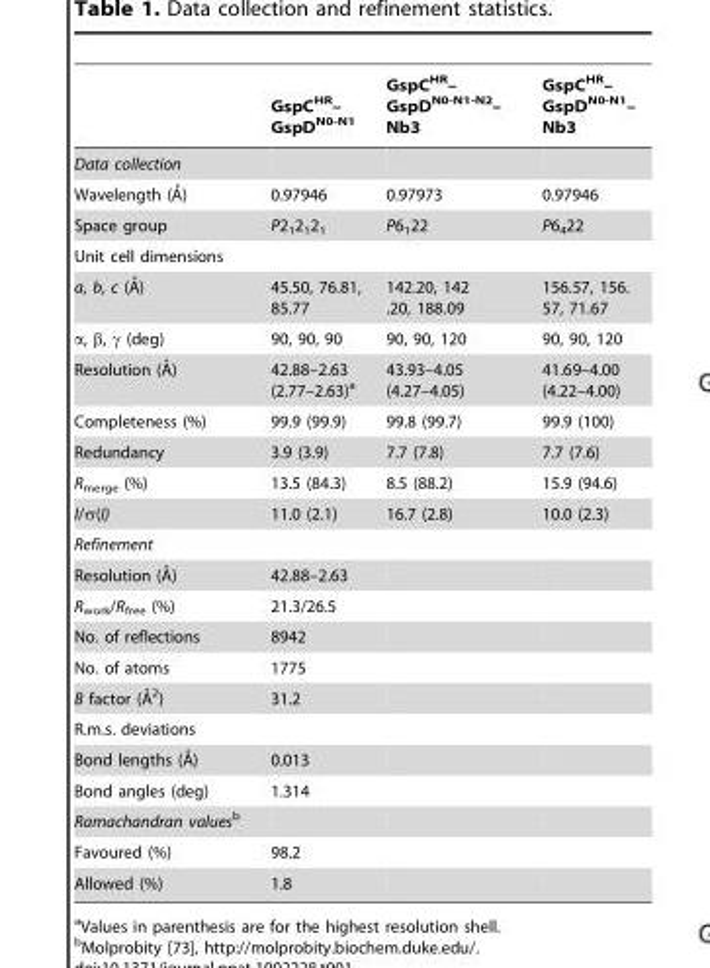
<table><thead><tr><td></td><td>GspC<sup>HR</sup>– GspD<sup>N0-N1</sup></td><td>GspC<sup>HR</sup>– GspD<sup>N0-N1-N2</sup>– Nb3</td><td>GspC<sup>HR</sup>– GspD<sup>N0-N1</sup>– Nb3</td></tr></thead><tbody><tr><td colspan="4">Data collection</td></tr><tr><td>Wavelength (A˚)</td><td>0.97946</td><td>0.97973</td><td>0.97946</td></tr><tr><td>Space group</td><td>P2<sub>1</sub>2<sub>1</sub>2<sub>1</sub></td><td>P6<sub>1</sub>22</td><td>P6<sub>4</sub>22</td></tr><tr><td colspan="4">Unit cell dimensions</td></tr><tr><td>a, b, c (A˚)</td><td>45.50, 76.81, 85.77</td><td>142.20, 142 .20, 188.09</td><td>156.57, 156. 57, 71.67</td></tr><tr><td>α, β, γ (deg)</td><td>90, 90, 90</td><td>90, 90, 120</td><td>90, 90, 120</td></tr><tr><td>Resolution (A˚)</td><td>42.88–2.63 (2.77–2.63)<sup>a</sup></td><td>43.93–4.05 (4.27–4.05)</td><td>41.69–4.00 (4.22–4.00)</td></tr><tr><td>Completeness (%)</td><td>99.9 (99.9)</td><td>99.8 (99.7)</td><td>99.9 (100)</td></tr><tr><td>Redundancy</td><td>3.9 (3.9)</td><td>7.7 (7.8)</td><td>7.7 (7.6)</td></tr><tr><td>R<sub>merge</sub> (%)</td><td>13.5 (84.3)</td><td>8.5 (88.2)</td><td>15.9 (94.6)</td></tr><tr><td>I/σ(I)</td><td>11.0 (2.1)</td><td>16.7 (2.8)</td><td>10.0 (2.3)</td></tr><tr><td colspan="4">Refinement</td></tr><tr><td>Resolution (A˚)</td><td>42.88–2.63</td><td></td><td></td></tr><tr><td>R<sub>work</sub>/R<sub>free</sub> (%)</td><td>21.3/26.5</td><td></td><td></td></tr><tr><td>No. of reflections</td><td>8942</td><td></td><td></td></tr><tr><td>No. of atoms</td><td>1775</td><td></td><td></td></tr><tr><td>B factor (A˚2)</td><td>31.2</td><td></td><td></td></tr><tr><td colspan="4">R.m.s. deviations</td></tr><tr><td>Bond lengths (A˚)</td><td>0.013</td><td></td><td></td></tr><tr><td>Bond angles (deg)</td><td>1.314</td><td></td><td></td></tr><tr><td colspan="4">Ramachandran valuesb</td></tr><tr><td>Favoured (%)</td><td>98.2</td><td></td><td></td></tr><tr><td>Allowed (%)</td><td>1.8</td><td></td><td></td></tr></tbody></table>